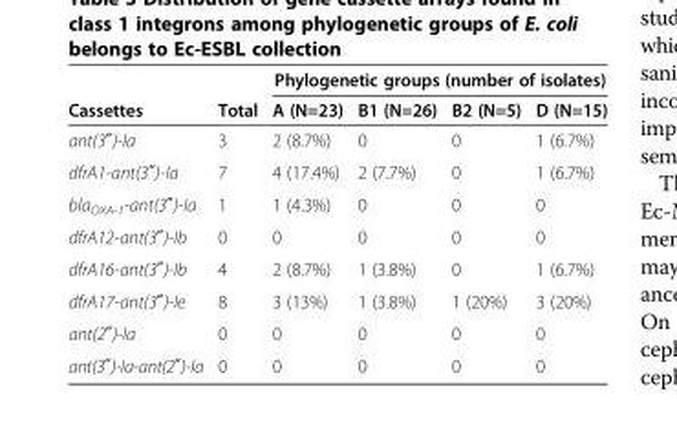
<table><thead><tr><td rowspan="2">Cassettes</td><td rowspan="2">Total</td><td colspan="4">Phylogenetic groups (number of isolates)</td></tr><tr><td>A (N=23)</td><td>B1 (N=26)</td><td>B2 (N=5)</td><td>D (N=15)</td></tr></thead><tbody><tr><td>ant(3″)-Ia</td><td>3</td><td>2 (8.7%)</td><td>0</td><td>0</td><td>1 (6.7%)</td></tr><tr><td>dfrA1-ant(3″)-Ia</td><td>7</td><td>4 (17.4%)</td><td>2 (7.7%)</td><td>0</td><td>1 (6.7%)</td></tr><tr><td>bla<sub>OXA-1</sub>-ant(3″)-Ia</td><td>1</td><td>1 (4.3%)</td><td>0</td><td>0</td><td>0</td></tr><tr><td>dfrA12-ant(3″)-Ib</td><td>0</td><td>0</td><td>0</td><td>0</td><td>0</td></tr><tr><td>dfrA16-ant(3″)-Ib</td><td>4</td><td>2 (8.7%)</td><td>1 (3.8%)</td><td>0</td><td>1 (6.7%)</td></tr><tr><td>dfrA17-ant(3″)-Ie</td><td>8</td><td>3 (13%)</td><td>1 (3.8%)</td><td>1 (20%)</td><td>3 (20%)</td></tr><tr><td>ant(2″)-Ia</td><td>0</td><td>0</td><td>0</td><td>0</td><td>0</td></tr><tr><td>ant(3″)-Ia-ant(2″)-Ia</td><td>0</td><td>0</td><td>0</td><td>0</td><td>0</td></tr></tbody></table>